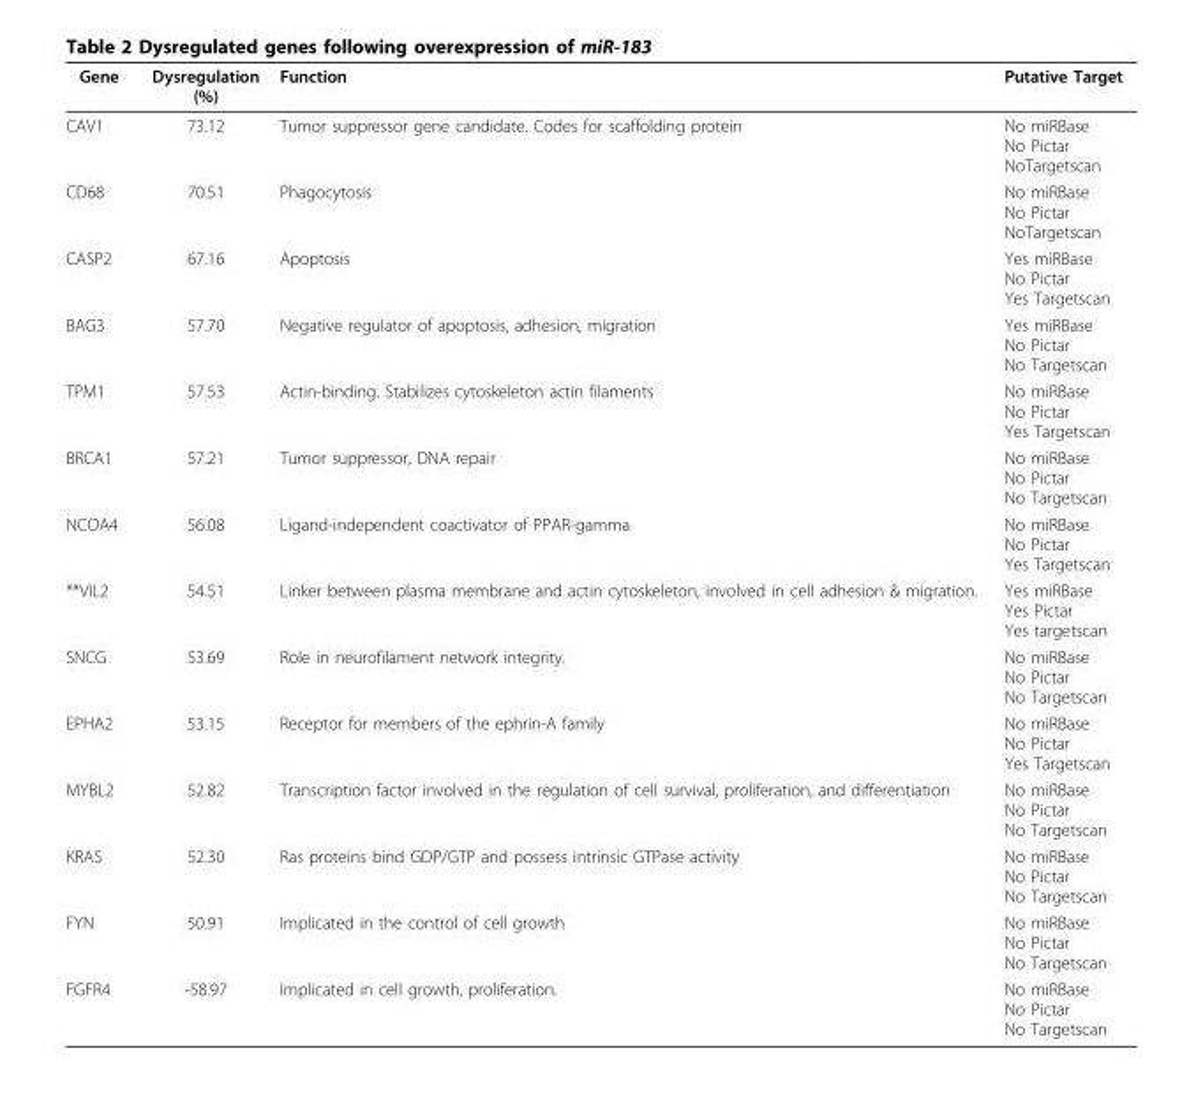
<table><thead><tr><td>Gene</td><td>Dysregulation (%)</td><td>Function</td><td>Putative Target</td></tr></thead><tbody><tr><td>CAV1</td><td>73.12</td><td>Tumor suppressor gene candidate. Codes for scaffolding protein</td><td>No miRBase No Pictar NoTargetscan</td></tr><tr><td>CD68</td><td>70.51</td><td>Phagocytosis</td><td>No miRBase No Pictar NoTargetscan</td></tr><tr><td>CASP2</td><td>67.16</td><td>Apoptosis</td><td>Yes miRBase No Pictar Yes Targetscan</td></tr><tr><td>BAG3</td><td>57.70</td><td>Negative regulator of apoptosis, adhesion, migration</td><td>Yes miRBase No Pictar No Targetscan</td></tr><tr><td>TPM1</td><td>57.53</td><td>Actin-binding. Stabilizes cytoskeleton actin filaments</td><td>No miRBase No Pictar Yes Targetscan</td></tr><tr><td>BRCA1</td><td>57.21</td><td>Tumor suppressor, DNA repair</td><td>No miRBase No Pictar No Targetscan</td></tr><tr><td>NCOA4</td><td>56.08</td><td>Ligand-independent coactivator of PPAR-gamma</td><td>No miRBase No Pictar Yes Targetscan</td></tr><tr><td>**VIL2</td><td>54.51</td><td>Linker between plasma membrane and actin cytoskeleton, involved in cell adhesion &amp; migration.</td><td>Yes miRBase Yes Pictar Yes targetscan</td></tr><tr><td>SNCG</td><td>53.69</td><td>Role in neurofilament network integrity.</td><td>No miRBase No Pictar No Targetscan</td></tr><tr><td>EPHA2</td><td>53.15</td><td>Receptor for members of the ephrin-A family</td><td>No miRBase No Pictar Yes Targetscan</td></tr><tr><td>MYBL2</td><td>52.82</td><td>Transcription factor involved in the regulation of cell survival, proliferation, and differentiation</td><td>No miRBase No Pictar No Targetscan</td></tr><tr><td>KRAS</td><td>52.30</td><td>Ras proteins bind GDP/GTP and possess intrinsic GTPase activity</td><td>No miRBase No Pictar No Targetscan</td></tr><tr><td>FYN</td><td>50.91</td><td>Implicated in the control of cell growth</td><td>No miRBase No Pictar No Targetscan</td></tr><tr><td>FGFR4</td><td>-58.97</td><td>Implicated in cell growth, proliferation.</td><td>No miRBase No Pictar No Targetscan</td></tr></tbody></table>